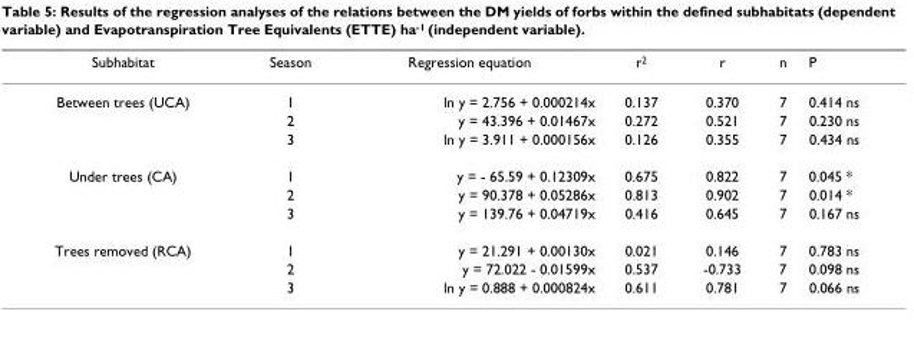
<table><thead><tr><td>Subhabitat</td><td>Season</td><td>Regression equation</td><td>r<sup>2</sup></td><td>r</td><td>n</td><td>P</td></tr></thead><tbody><tr><td rowspan="3">Between trees (UCA)</td><td>1</td><td>ln y = 2.756 + 0.000214x</td><td>0.137</td><td>0.370</td><td>7</td><td>0.414 ns</td></tr><tr><td>2</td><td>y = 43.396 + 0.01467x</td><td>0.272</td><td>0.521</td><td>7</td><td>0.230 ns</td></tr><tr><td>3</td><td>ln y = 3.911 + 0.000156x</td><td>0.126</td><td>0.355</td><td>7</td><td>0.434 ns</td></tr><tr><td rowspan="3">Under trees (CA)</td><td>1</td><td>y = - 65.59 + 0.12309x</td><td>0.675</td><td>0.822</td><td>7</td><td>0.045 *</td></tr><tr><td>2</td><td>y = 90.378 + 0.05286x</td><td>0.813</td><td>0.902</td><td>7</td><td>0.014 *</td></tr><tr><td>3</td><td>y = 139.76 + 0.04719x</td><td>0.416</td><td>0.645</td><td>7</td><td>0.167 ns</td></tr><tr><td rowspan="3">Trees removed (RCA)</td><td>1</td><td>y = 21.291 + 0.00130x</td><td>0.021</td><td>0.146</td><td>7</td><td>0.783 ns</td></tr><tr><td>2</td><td>y = 72.022 - 0.01599x</td><td>0.537</td><td>-0.733</td><td>7</td><td>0.098 ns</td></tr><tr><td>3</td><td>ln y = 0.888 + 0.000824x</td><td>0.611</td><td>0.781</td><td>7</td><td>0.066 ns</td></tr></tbody></table>